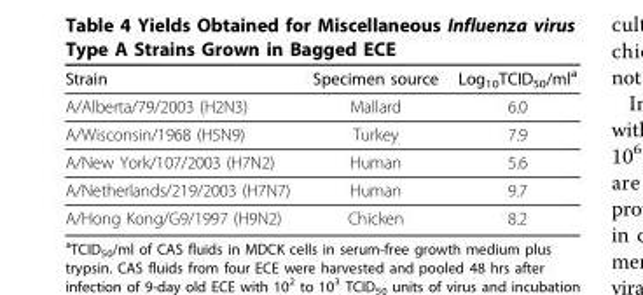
<table><thead><tr><td>Strain</td><td>Specimen source</td><td>Log<sub>10</sub>TCID<sub>50</sub>/ml<sup>a</sup></td></tr></thead><tbody><tr><td>A/Alberta/79/2003 (H2N3)</td><td>Mallard</td><td>6.0</td></tr><tr><td>A/Wisconsin/1968 (H5N9)</td><td>Turkey</td><td>7.9</td></tr><tr><td>A/New York/107/2003 (H7N2)</td><td>Human</td><td>5.6</td></tr><tr><td>A/Netherlands/219/2003 (H7N7)</td><td>Human</td><td>9.7</td></tr><tr><td>A/Hong Kong/G9/1997 (H9N2)</td><td>Chicken</td><td>8.2</td></tr></tbody></table>